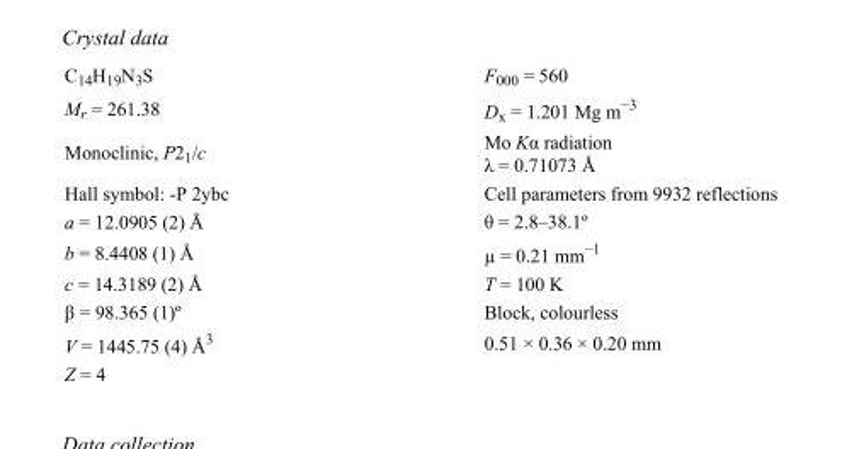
<table><tbody><tr><td>C<sub>14</sub>H<sub>19</sub>N<sub>3</sub>S</td><td>F000 = 560</td></tr><tr><td>M<sub>r</sub> = 261.38</td><td>D<sub>x</sub> = 1.201 Mg m<sup>−3</sup></td></tr><tr><td>Monoclinic, P2<sub>1</sub>/c</td><td>Mo Kα radiation λ = 0.71073 Å</td></tr><tr><td>Hall symbol: -P 2ybc</td><td>Cell parameters from 9932 reflections</td></tr><tr><td>a = 12.0905 (2) Å</td><td>θ = 2.8–38.1º</td></tr><tr><td>b = 8.4408 (1) Å</td><td>µ = 0.21 mm<sup>−1</sup></td></tr><tr><td>c = 14.3189 (2) Å</td><td>T = 100 K</td></tr><tr><td>β = 98.365 (1)º</td><td>Block, colourless</td></tr><tr><td>V = 1445.75 (4) Å<sup>3</sup></td><td>0.51 × 0.36 × 0.20 mm</td></tr><tr><td>Z = 4</td><td></td></tr></tbody></table>